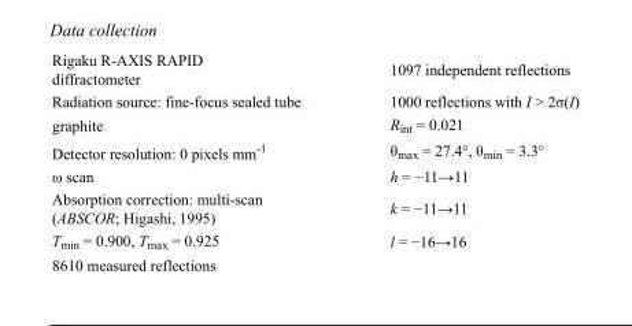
<table><tbody><tr><td>Rigaku R-AXIS RAPID diffractometer</td><td>1097 independent reflections</td></tr><tr><td>Radiation source: fine-focus sealed tube</td><td>1000 reflections with I &gt; 2σ(I)</td></tr><tr><td>graphite</td><td>R<sub>int</sub> = 0.021</td></tr><tr><td>Detector resolution: 0 pixels mm<sup>-1</sup></td><td>θ<sub>max</sub> = 27.4°, θ<sub>min</sub> = 3.3°</td></tr><tr><td>ω scan</td><td>h = −11→11</td></tr><tr><td>Absorption correction: multi-scan (ABSCOR; Higashi, 1995)</td><td>k = −11→11</td></tr><tr><td>T<sub>min</sub> = 0.900, T<sub>max</sub> = 0.925</td><td>l = −16→16</td></tr><tr><td>8610 measured reflections</td><td></td></tr></tbody></table>